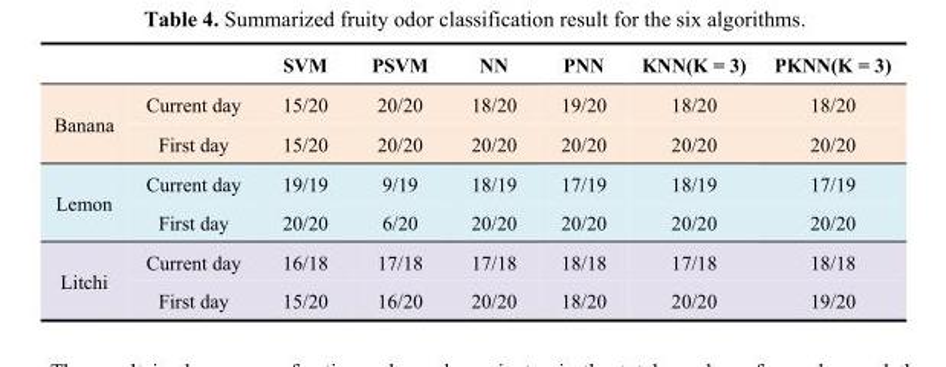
<table><thead><tr><td></td><td></td><td>SVM</td><td>PSVM</td><td>NN</td><td>PNN</td><td>KNN(K = 3)</td><td>PKNN(K = 3)</td></tr></thead><tbody><tr><td rowspan="2">Banana</td><td>Current day</td><td>15/20</td><td>20/20</td><td>18/20</td><td>19/20</td><td>18/20</td><td>18/20</td></tr><tr><td>First day</td><td>15/20</td><td>20/20</td><td>20/20</td><td>20/20</td><td>20/20</td><td>20/20</td></tr><tr><td rowspan="2">Lemon</td><td>Current day</td><td>19/19</td><td>9/19</td><td>18/19</td><td>17/19</td><td>18/19</td><td>17/19</td></tr><tr><td>First day</td><td>20/20</td><td>6/20</td><td>20/20</td><td>20/20</td><td>20/20</td><td>20/20</td></tr><tr><td rowspan="2">Litchi</td><td>Current day</td><td>16/18</td><td>17/18</td><td>17/18</td><td>18/18</td><td>17/18</td><td>18/18</td></tr><tr><td>First day</td><td>15/20</td><td>16/20</td><td>20/20</td><td>18/20</td><td>20/20</td><td>19/20</td></tr></tbody></table>